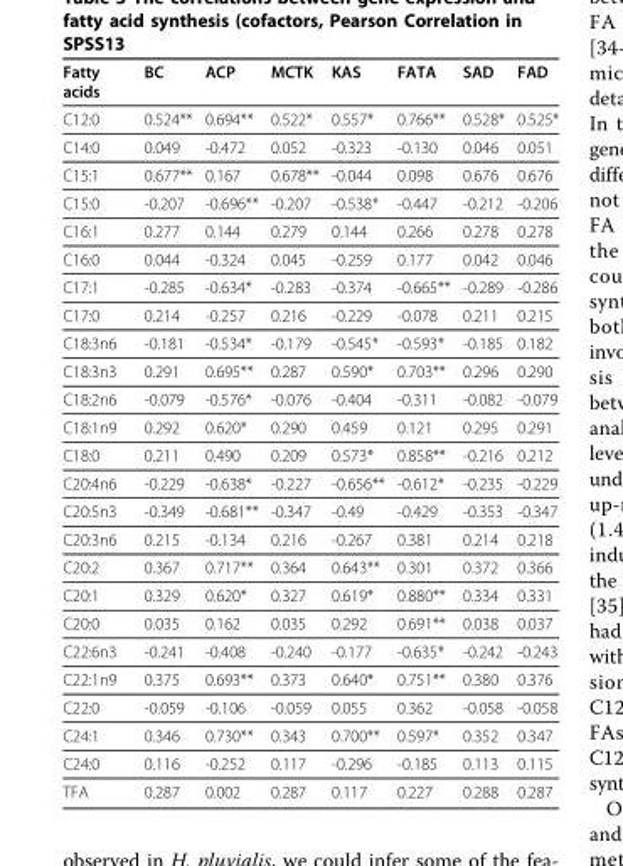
<table><thead><tr><td>Fatty acids</td><td>BC</td><td>ACP</td><td>MCTK</td><td>KAS</td><td>FATA</td><td>SAD</td><td>FAD</td></tr></thead><tbody><tr><td>C12:0</td><td>0.524**</td><td>0.694**</td><td>0.522*</td><td>0.557*</td><td>0.766**</td><td>0.528*</td><td>0.525*</td></tr><tr><td>C14:0</td><td>0.049</td><td>-0.472</td><td>0.052</td><td>-0.323</td><td>-0.130</td><td>0.046</td><td>0.051</td></tr><tr><td>C15:1</td><td>0.677**</td><td>0.167</td><td>0.678**</td><td>-0.044</td><td>0.098</td><td>0.676</td><td>0.676</td></tr><tr><td>C15:0</td><td>-0.207</td><td>-0.696**</td><td>-0.207</td><td>-0.538*</td><td>-0.447</td><td>-0.212</td><td>-0.206</td></tr><tr><td>C16:1</td><td>0.277</td><td>0.144</td><td>0.279</td><td>0.144</td><td>0.266</td><td>0.278</td><td>0.278</td></tr><tr><td>C16:0</td><td>0.044</td><td>-0.324</td><td>0.045</td><td>-0.259</td><td>0.177</td><td>0.042</td><td>0.046</td></tr><tr><td>C17:1</td><td>-0.285</td><td>-0.634*</td><td>-0.283</td><td>-0.374</td><td>-0.665**</td><td>-0.289</td><td>-0.286</td></tr><tr><td>C17:0</td><td>0.214</td><td>-0.257</td><td>0.216</td><td>-0.229</td><td>-0.078</td><td>0.211</td><td>0.215</td></tr><tr><td>C18:3n6</td><td>-0.181</td><td>-0.534*</td><td>-0.179</td><td>-0.545*</td><td>-0.593*</td><td>-0.185</td><td>0.182</td></tr><tr><td>C18:3n3</td><td>0.291</td><td>0.695**</td><td>0.287</td><td>0.590*</td><td>0.703**</td><td>0.296</td><td>0.290</td></tr><tr><td>C18:2n6</td><td>-0.079</td><td>-0.576*</td><td>-0.076</td><td>-0.404</td><td>-0.311</td><td>-0.082</td><td>-0.079</td></tr><tr><td>C18:1n9</td><td>0.292</td><td>0.620*</td><td>0.290</td><td>0.459</td><td>0.121</td><td>0.295</td><td>0.291</td></tr><tr><td>C18:0</td><td>0.211</td><td>0.490</td><td>0.209</td><td>0.573*</td><td>0.858**</td><td>-0.216</td><td>0.212</td></tr><tr><td>C20:4n6</td><td>-0.229</td><td>-0.638*</td><td>-0.227</td><td>-0.656**</td><td>-0.612*</td><td>-0.235</td><td>-0.229</td></tr><tr><td>C20:5n3</td><td>-0.349</td><td>-0.681**</td><td>-0.347</td><td>-0.49</td><td>-0.429</td><td>-0.353</td><td>-0.347</td></tr><tr><td>C20:3n6</td><td>0.215</td><td>-0.134</td><td>0.216</td><td>-0.267</td><td>0.381</td><td>0.214</td><td>0.218</td></tr><tr><td>C20:2</td><td>0.367</td><td>0.717**</td><td>0.364</td><td>0.643**</td><td>0.301</td><td>0.372</td><td>0.366</td></tr><tr><td>C20:1</td><td>0.329</td><td>0.620*</td><td>0.327</td><td>0.619*</td><td>0.880**</td><td>0.334</td><td>0.331</td></tr><tr><td>C20:0</td><td>0.035</td><td>0.162</td><td>0.035</td><td>0.292</td><td>0.691**</td><td>0.038</td><td>0.037</td></tr><tr><td>C22:6n3</td><td>-0.241</td><td>-0.408</td><td>-0.240</td><td>-0.177</td><td>-0.635*</td><td>-0.242</td><td>-0.243</td></tr><tr><td>C22:1n9</td><td>0.375</td><td>0.693**</td><td>0.373</td><td>0.640*</td><td>0.751**</td><td>0.380</td><td>0.376</td></tr><tr><td>C22:0</td><td>-0.059</td><td>-0.106</td><td>-0.059</td><td>0.055</td><td>0.362</td><td>-0.058</td><td>-0.058</td></tr><tr><td>C24:1</td><td>0.346</td><td>0.730**</td><td>0.343</td><td>0.700**</td><td>0.597*</td><td>0.352</td><td>0.347</td></tr><tr><td>C24:0</td><td>0.116</td><td>-0.252</td><td>0.117</td><td>-0.296</td><td>-0.185</td><td>0.113</td><td>0.115</td></tr><tr><td>TFA</td><td>0.287</td><td>0.002</td><td>0.287</td><td>0.117</td><td>0.227</td><td>0.288</td><td>0.287</td></tr></tbody></table>